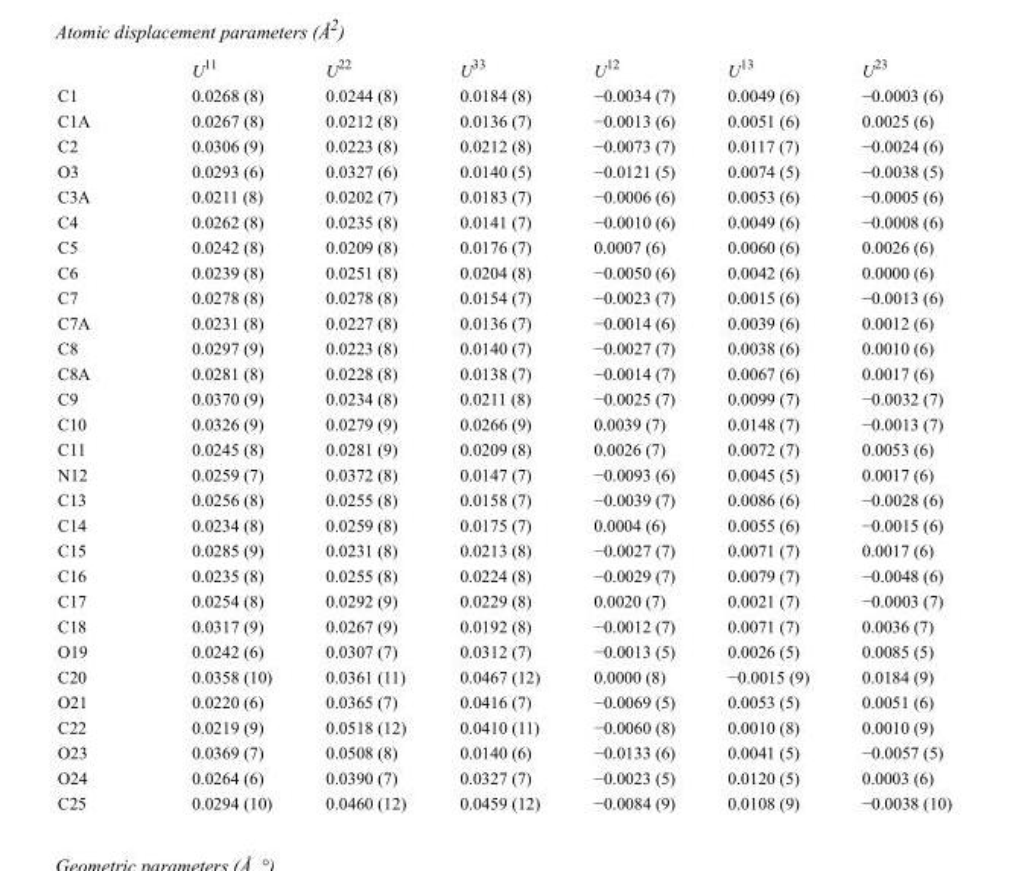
<table><thead><tr><td></td><td>U<sup>11</sup></td><td>U<sup>22</sup></td><td>U<sup>33</sup></td><td>U<sup>12</sup></td><td>U<sup>13</sup></td><td>U<sup>23</sup></td></tr></thead><tbody><tr><td>C1</td><td>0.0268 (8)</td><td>0.0244 (8)</td><td>0.0184 (8)</td><td>−0.0034 (7)</td><td>0.0049 (6)</td><td>−0.0003 (6)</td></tr><tr><td>C1A</td><td>0.0267 (8)</td><td>0.0212 (8)</td><td>0.0136 (7)</td><td>−0.0013 (6)</td><td>0.0051 (6)</td><td>0.0025 (6)</td></tr><tr><td>C2</td><td>0.0306 (9)</td><td>0.0223 (8)</td><td>0.0212 (8)</td><td>−0.0073 (7)</td><td>0.0117 (7)</td><td>−0.0024 (6)</td></tr><tr><td>O3</td><td>0.0293 (6)</td><td>0.0327 (6)</td><td>0.0140 (5)</td><td>−0.0121 (5)</td><td>0.0074 (5)</td><td>−0.0038 (5)</td></tr><tr><td>C3A</td><td>0.0211 (8)</td><td>0.0202 (7)</td><td>0.0183 (7)</td><td>−0.0006 (6)</td><td>0.0053 (6)</td><td>−0.0005 (6)</td></tr><tr><td>C4</td><td>0.0262 (8)</td><td>0.0235 (8)</td><td>0.0141 (7)</td><td>−0.0010 (6)</td><td>0.0049 (6)</td><td>−0.0008 (6)</td></tr><tr><td>C5</td><td>0.0242 (8)</td><td>0.0209 (8)</td><td>0.0176 (7)</td><td>0.0007 (6)</td><td>0.0060 (6)</td><td>0.0026 (6)</td></tr><tr><td>C6</td><td>0.0239 (8)</td><td>0.0251 (8)</td><td>0.0204 (8)</td><td>−0.0050 (6)</td><td>0.0042 (6)</td><td>0.0000 (6)</td></tr><tr><td>C7</td><td>0.0278 (8)</td><td>0.0278 (8)</td><td>0.0154 (7)</td><td>−0.0023 (7)</td><td>0.0015 (6)</td><td>−0.0013 (6)</td></tr><tr><td>C7A</td><td>0.0231 (8)</td><td>0.0227 (8)</td><td>0.0136 (7)</td><td>−0.0014 (6)</td><td>0.0039 (6)</td><td>0.0012 (6)</td></tr><tr><td>C8</td><td>0.0297 (9)</td><td>0.0223 (8)</td><td>0.0140 (7)</td><td>−0.0027 (7)</td><td>0.0038 (6)</td><td>0.0010 (6)</td></tr><tr><td>C8A</td><td>0.0281 (8)</td><td>0.0228 (8)</td><td>0.0138 (7)</td><td>−0.0014 (7)</td><td>0.0067 (6)</td><td>0.0017 (6)</td></tr><tr><td>C9</td><td>0.0370 (9)</td><td>0.0234 (8)</td><td>0.0211 (8)</td><td>−0.0025 (7)</td><td>0.0099 (7)</td><td>−0.0032 (7)</td></tr><tr><td>C10</td><td>0.0326 (9)</td><td>0.0279 (9)</td><td>0.0266 (9)</td><td>0.0039 (7)</td><td>0.0148 (7)</td><td>−0.0013 (7)</td></tr><tr><td>C11</td><td>0.0245 (8)</td><td>0.0281 (9)</td><td>0.0209 (8)</td><td>0.0026 (7)</td><td>0.0072 (7)</td><td>0.0053 (6)</td></tr><tr><td>N12</td><td>0.0259 (7)</td><td>0.0372 (8)</td><td>0.0147 (7)</td><td>−0.0093 (6)</td><td>0.0045 (5)</td><td>0.0017 (6)</td></tr><tr><td>C13</td><td>0.0256 (8)</td><td>0.0255 (8)</td><td>0.0158 (7)</td><td>−0.0039 (7)</td><td>0.0086 (6)</td><td>−0.0028 (6)</td></tr><tr><td>C14</td><td>0.0234 (8)</td><td>0.0259 (8)</td><td>0.0175 (7)</td><td>0.0004 (6)</td><td>0.0055 (6)</td><td>−0.0015 (6)</td></tr><tr><td>C15</td><td>0.0285 (9)</td><td>0.0231 (8)</td><td>0.0213 (8)</td><td>−0.0027 (7)</td><td>0.0071 (7)</td><td>0.0017 (6)</td></tr><tr><td>C16</td><td>0.0235 (8)</td><td>0.0255 (8)</td><td>0.0224 (8)</td><td>−0.0029 (7)</td><td>0.0079 (7)</td><td>−0.0048 (6)</td></tr><tr><td>C17</td><td>0.0254 (8)</td><td>0.0292 (9)</td><td>0.0229 (8)</td><td>0.0020 (7)</td><td>0.0021 (7)</td><td>−0.0003 (7)</td></tr><tr><td>C18</td><td>0.0317 (9)</td><td>0.0267 (9)</td><td>0.0192 (8)</td><td>−0.0012 (7)</td><td>0.0071 (7)</td><td>0.0036 (7)</td></tr><tr><td>O19</td><td>0.0242 (6)</td><td>0.0307 (7)</td><td>0.0312 (7)</td><td>−0.0013 (5)</td><td>0.0026 (5)</td><td>0.0085 (5)</td></tr><tr><td>C20</td><td>0.0358 (10)</td><td>0.0361 (11)</td><td>0.0467 (12)</td><td>0.0000 (8)</td><td>−0.0015 (9)</td><td>0.0184 (9)</td></tr><tr><td>O21</td><td>0.0220 (6)</td><td>0.0365 (7)</td><td>0.0416 (7)</td><td>−0.0069 (5)</td><td>0.0053 (5)</td><td>0.0051 (6)</td></tr><tr><td>C22</td><td>0.0219 (9)</td><td>0.0518 (12)</td><td>0.0410 (11)</td><td>−0.0060 (8)</td><td>0.0010 (8)</td><td>0.0010 (9)</td></tr><tr><td>O23</td><td>0.0369 (7)</td><td>0.0508 (8)</td><td>0.0140 (6)</td><td>−0.0133 (6)</td><td>0.0041 (5)</td><td>−0.0057 (5)</td></tr><tr><td>O24</td><td>0.0264 (6)</td><td>0.0390 (7)</td><td>0.0327 (7)</td><td>−0.0023 (5)</td><td>0.0120 (5)</td><td>0.0003 (6)</td></tr><tr><td>C25</td><td>0.0294 (10)</td><td>0.0460 (12)</td><td>0.0459 (12)</td><td>−0.0084 (9)</td><td>0.0108 (9)</td><td>−0.0038 (10)</td></tr></tbody></table>